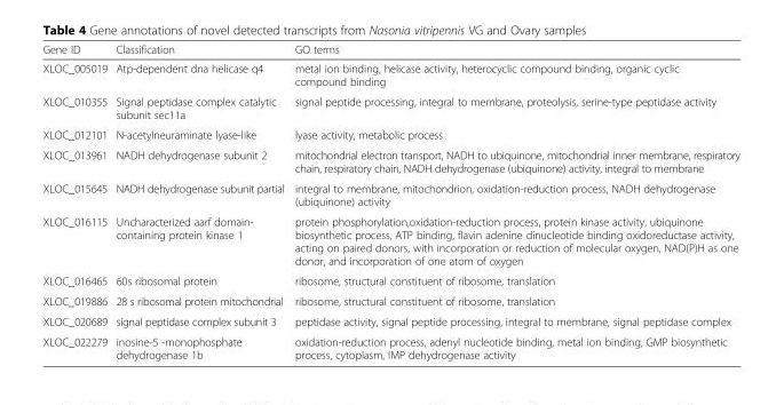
<table><thead><tr><td>Gene ID</td><td>Classification</td><td>GO terms</td></tr></thead><tbody><tr><td>XLOC_005019</td><td>Atp-dependent dna helicase q4</td><td>metal ion binding, helicase activity, heterocyclic compound binding, organic cyclic compound binding</td></tr><tr><td>XLOC_010355</td><td>Signal peptidase complex catalytic subunit sec11a</td><td>signal peptide processing, integral to membrane, proteolysis, serine-type peptidase activity</td></tr><tr><td>XLOC_012101</td><td>N-acetylneuraminate lyase-like</td><td>lyase activity, metabolic process</td></tr><tr><td>XLOC_013961</td><td>NADH dehydrogenase subunit 2</td><td>mitochondrial electron transport, NADH to ubiquinone, mitochondrial inner membrane, respiratory chain, respiratory chain, NADH dehydrogenase (ubiquinone) activity, integral to membrane</td></tr><tr><td>XLOC_015645</td><td>NADH dehydrogenase subunit partial</td><td>integral to membrane, mitochondrion, oxidation-reduction process, NADH dehydrogenase (ubiquinone) activity</td></tr><tr><td>XLOC_016115</td><td>Uncharacterized aarf domain- containing protein kinase 1</td><td>protein phosphorylation,oxidation-reduction process, protein kinase activity, ubiquinone biosynthetic process, ATP binding, flavin adenine dinucleotide binding oxidoreductase activity, acting on paired donors, with incorporation or reduction of molecular oxygen, NAD(P)H as one donor, and incorporation of one atom of oxygen</td></tr><tr><td>XLOC_016465</td><td>60s ribosomal protein</td><td>ribosome, structural constituent of ribosome, translation</td></tr><tr><td>XLOC_019886</td><td>28 s ribosomal protein mitochondrial</td><td>ribosome, structural constituent of ribosome, translation</td></tr><tr><td>XLOC_020689</td><td>signal peptidase complex subunit 3</td><td>peptidase activity, signal peptide processing, integral to membrane, signal peptidase complex</td></tr><tr><td>XLOC_022279</td><td>inosine-5 -monophosphate dehydrogenase 1b</td><td>oxidation-reduction process, adenyl nucleotide binding, metal ion binding, GMP biosynthetic process, cytoplasm, IMP dehydrogenase activity</td></tr></tbody></table>